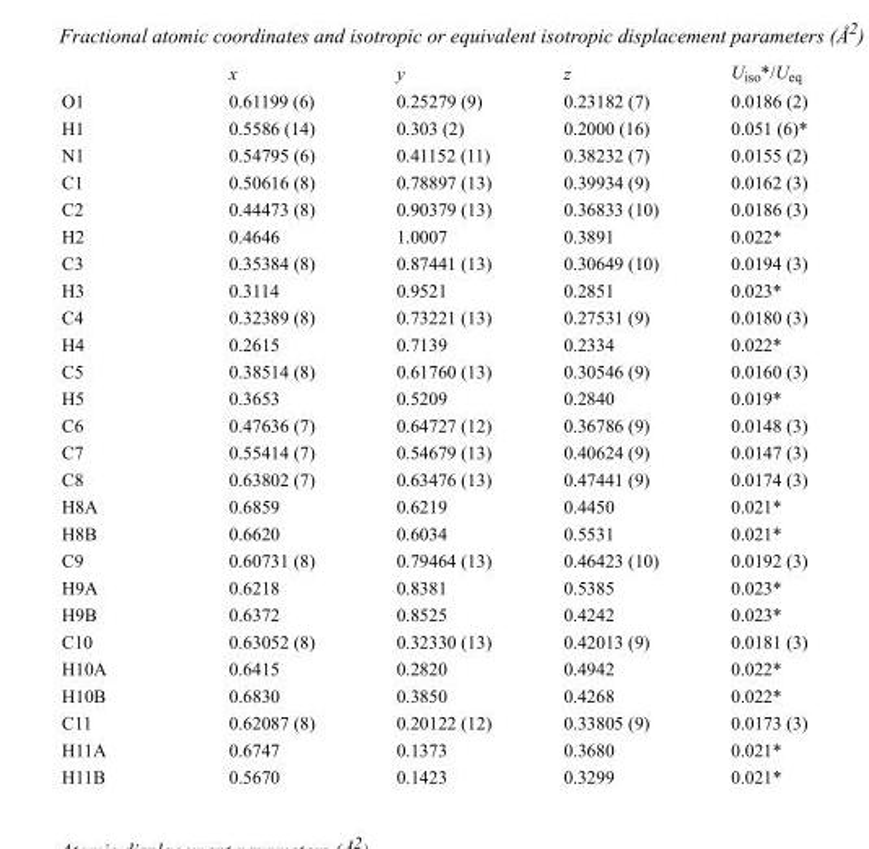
<table><thead><tr><td></td><td>x</td><td>y</td><td>z</td><td>U<sub>iso</sub>*/U<sub>eq</sub></td></tr></thead><tbody><tr><td>O1</td><td>0.61199 (6)</td><td>0.25279 (9)</td><td>0.23182 (7)</td><td>0.0186 (2)</td></tr><tr><td>H1</td><td>0.5586 (14)</td><td>0.303 (2)</td><td>0.2000 (16)</td><td>0.051 (6)*</td></tr><tr><td>N1</td><td>0.54795 (6)</td><td>0.41152 (11)</td><td>0.38232 (7)</td><td>0.0155 (2)</td></tr><tr><td>C1</td><td>0.50616 (8)</td><td>0.78897 (13)</td><td>0.39934 (9)</td><td>0.0162 (3)</td></tr><tr><td>C2</td><td>0.44473 (8)</td><td>0.90379 (13)</td><td>0.36833 (10)</td><td>0.0186 (3)</td></tr><tr><td>H2</td><td>0.4646</td><td>1.0007</td><td>0.3891</td><td>0.022*</td></tr><tr><td>C3</td><td>0.35384 (8)</td><td>0.87441 (13)</td><td>0.30649 (10)</td><td>0.0194 (3)</td></tr><tr><td>H3</td><td>0.3114</td><td>0.9521</td><td>0.2851</td><td>0.023*</td></tr><tr><td>C4</td><td>0.32389 (8)</td><td>0.73221 (13)</td><td>0.27531 (9)</td><td>0.0180 (3)</td></tr><tr><td>H4</td><td>0.2615</td><td>0.7139</td><td>0.2334</td><td>0.022*</td></tr><tr><td>C5</td><td>0.38514 (8)</td><td>0.61760 (13)</td><td>0.30546 (9)</td><td>0.0160 (3)</td></tr><tr><td>H5</td><td>0.3653</td><td>0.5209</td><td>0.2840</td><td>0.019*</td></tr><tr><td>C6</td><td>0.47636 (7)</td><td>0.64727 (12)</td><td>0.36786 (9)</td><td>0.0148 (3)</td></tr><tr><td>C7</td><td>0.55414 (7)</td><td>0.54679 (13)</td><td>0.40624 (9)</td><td>0.0147 (3)</td></tr><tr><td>C8</td><td>0.63802 (7)</td><td>0.63476 (13)</td><td>0.47441 (9)</td><td>0.0174 (3)</td></tr><tr><td>H8A</td><td>0.6859</td><td>0.6219</td><td>0.4450</td><td>0.021*</td></tr><tr><td>H8B</td><td>0.6620</td><td>0.6034</td><td>0.5531</td><td>0.021*</td></tr><tr><td>C9</td><td>0.60731 (8)</td><td>0.79464 (13)</td><td>0.46423 (10)</td><td>0.0192 (3)</td></tr><tr><td>H9A</td><td>0.6218</td><td>0.8381</td><td>0.5385</td><td>0.023*</td></tr><tr><td>H9B</td><td>0.6372</td><td>0.8525</td><td>0.4242</td><td>0.023*</td></tr><tr><td>C10</td><td>0.63052 (8)</td><td>0.32330 (13)</td><td>0.42013 (9)</td><td>0.0181 (3)</td></tr><tr><td>H10A</td><td>0.6415</td><td>0.2820</td><td>0.4942</td><td>0.022*</td></tr><tr><td>H10B</td><td>0.6830</td><td>0.3850</td><td>0.4268</td><td>0.022*</td></tr><tr><td>C11</td><td>0.62087 (8)</td><td>0.20122 (12)</td><td>0.33805 (9)</td><td>0.0173 (3)</td></tr><tr><td>H11A</td><td>0.6747</td><td>0.1373</td><td>0.3680</td><td>0.021*</td></tr><tr><td>H11B</td><td>0.5670</td><td>0.1423</td><td>0.3299</td><td>0.021*</td></tr></tbody></table>